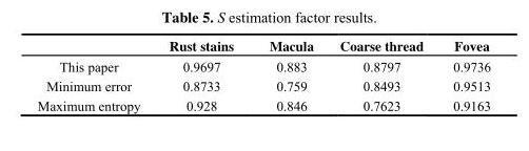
<table><thead><tr><td></td><td>Rust stains</td><td>Macula</td><td>Coarse thread</td><td>Fovea</td></tr></thead><tbody><tr><td>This paper</td><td>0.9697</td><td>0.883</td><td>0.8797</td><td>0.9736</td></tr><tr><td>Minimum error</td><td>0.8733</td><td>0.759</td><td>0.8493</td><td>0.9513</td></tr><tr><td>Maximum entropy</td><td>0.928</td><td>0.846</td><td>0.7623</td><td>0.9163</td></tr></tbody></table>